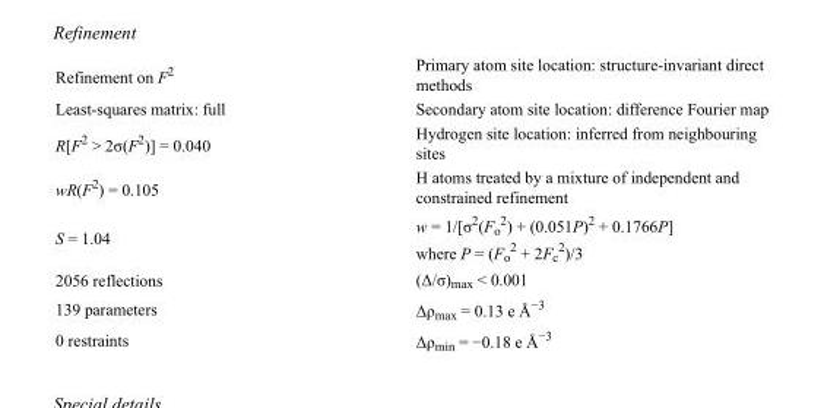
<table><tbody><tr><td>Refinement on F<sup>2</sup></td><td>Primary atom site location: structure-invariant direct methods</td></tr><tr><td>Least-squares matrix: full</td><td>Secondary atom site location: difference Fourier map</td></tr><tr><td>R[F<sup>2</sup> &gt; 2σ(F<sup>2</sup>)] = 0.040</td><td>Hydrogen site location: inferred from neighbouring sites</td></tr><tr><td>wR(F<sup>2</sup>) = 0.105</td><td>H atoms treated by a mixture of independent and constrained refinement</td></tr><tr><td>S = 1.04</td><td>w = 1/[σ<sup>2</sup>(F<sub>o</sub> <sup>2</sup>) + (0.051P)<sup>2</sup> + 0.1766P] where P = (F<sub>o</sub> <sup>2</sup> + 2F<sub>c</sub> <sup>2</sup>)/3</td></tr><tr><td>2056 reflections</td><td>(Δ/σ)<sub>max</sub> &lt; 0.001</td></tr><tr><td>139 parameters</td><td>Δρ<sub>max</sub> = 0.13 e Å<sup>−3</sup></td></tr><tr><td>0 restraints</td><td>Δρ<sub>min</sub> = −0.18 e Å<sup>−3</sup></td></tr></tbody></table>